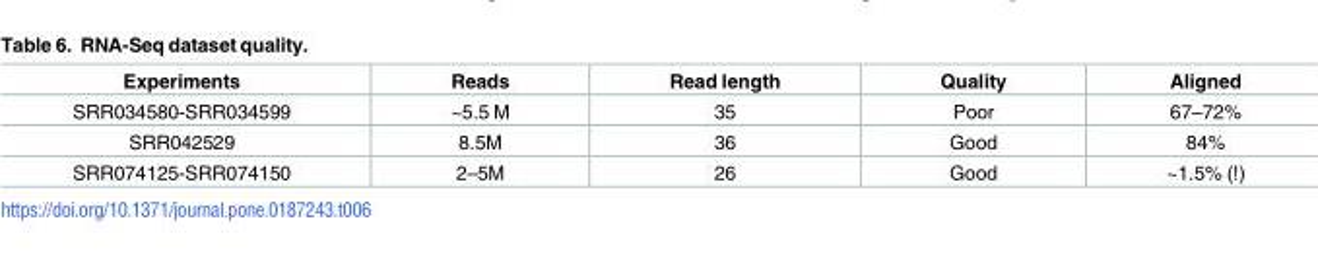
<table><thead><tr><td>Experiments</td><td>Reads</td><td>Read length</td><td>Quality</td><td>Aligned</td></tr></thead><tbody><tr><td>SRR034580-SRR034599</td><td>~5.5 M</td><td>35</td><td>Poor</td><td>67–72%</td></tr><tr><td>SRR042529</td><td>8.5M</td><td>36</td><td>Good</td><td>84%</td></tr><tr><td>SRR074125-SRR074150</td><td>2–5M</td><td>26</td><td>Good</td><td>~1.5% (!)</td></tr></tbody></table>